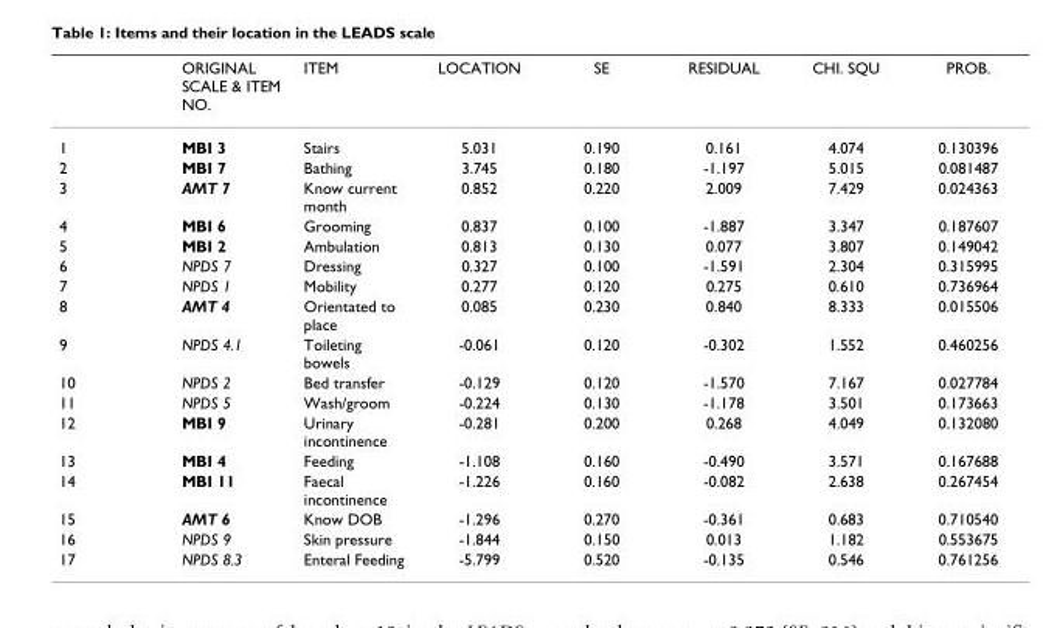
<table><thead><tr><td></td><td>ORIGINAL SCALE &amp; ITEM NO.</td><td>ITEM</td><td>LOCATION</td><td>SE</td><td>RESIDUAL</td><td>CHI. SQU</td><td>PROB.</td></tr></thead><tbody><tr><td>1</td><td>MBI 3</td><td>Stairs</td><td>5.031</td><td>0.190</td><td>0.161</td><td>4.074</td><td>0.130396</td></tr><tr><td>2</td><td>MBI 7</td><td>Bathing</td><td>3.745</td><td>0.180</td><td>-1.197</td><td>5.015</td><td>0.081487</td></tr><tr><td>3</td><td>AMT 7</td><td>Know current month</td><td>0.852</td><td>0.220</td><td>2.009</td><td>7.429</td><td>0.024363</td></tr><tr><td>4</td><td>MBI 6</td><td>Grooming</td><td>0.837</td><td>0.100</td><td>-1.887</td><td>3.347</td><td>0.187607</td></tr><tr><td>5</td><td>MBI 2</td><td>Ambulation</td><td>0.813</td><td>0.130</td><td>0.077</td><td>3.807</td><td>0.149042</td></tr><tr><td>6</td><td>NPDS 7</td><td>Dressing</td><td>0.327</td><td>0.100</td><td>-1.591</td><td>2.304</td><td>0.315995</td></tr><tr><td>7</td><td>NPDS 1</td><td>Mobility</td><td>0.277</td><td>0.120</td><td>0.275</td><td>0.610</td><td>0.736964</td></tr><tr><td>8</td><td>AMT 4</td><td>Orientated to place</td><td>0.085</td><td>0.230</td><td>0.840</td><td>8.333</td><td>0.015506</td></tr><tr><td>9</td><td>NPDS 4.1</td><td>Toileting bowels</td><td>-0.061</td><td>0.120</td><td>-0.302</td><td>1.552</td><td>0.460256</td></tr><tr><td>10</td><td>NPDS 2</td><td>Bed transfer</td><td>-0.129</td><td>0.120</td><td>-1.570</td><td>7.167</td><td>0.027784</td></tr><tr><td>11</td><td>NPDS 5</td><td>Wash/groom</td><td>-0.224</td><td>0.130</td><td>-1.178</td><td>3.501</td><td>0.173663</td></tr><tr><td>12</td><td>MBI 9</td><td>Urinary incontinence</td><td>-0.281</td><td>0.200</td><td>0.268</td><td>4.049</td><td>0.132080</td></tr><tr><td>13</td><td>MBI 4</td><td>Feeding</td><td>-1.108</td><td>0.160</td><td>-0.490</td><td>3.571</td><td>0.167688</td></tr><tr><td>14</td><td>MBI 11</td><td>Faecal incontinence</td><td>-1.226</td><td>0.160</td><td>-0.082</td><td>2.638</td><td>0.267454</td></tr><tr><td>15</td><td>AMT 6</td><td>Know DOB</td><td>-1.296</td><td>0.270</td><td>-0.361</td><td>0.683</td><td>0.710540</td></tr><tr><td>16</td><td>NPDS 9</td><td>Skin pressure</td><td>-1.844</td><td>0.150</td><td>0.013</td><td>1.182</td><td>0.553675</td></tr><tr><td>17</td><td>NPDS 8.3</td><td>Enteral Feeding</td><td>-5.799</td><td>0.520</td><td>-0.135</td><td>0.546</td><td>0.761256</td></tr></tbody></table>